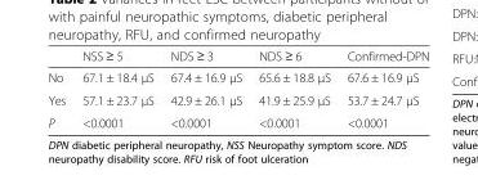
<table><thead><tr><td></td><td>NSS ≥ 5</td><td>NDS ≥ 3</td><td>NDS ≥ 6</td><td>Confirmed-DPN</td></tr></thead><tbody><tr><td>No</td><td>67.1 ± 18.4 μS</td><td>67.4 ± 16.9 μS</td><td>65.6 ± 18.8 μS</td><td>67.6 ± 16.9 μS</td></tr><tr><td>Yes</td><td>57.1 ± 23.7 μS</td><td>42.9 ± 26.1 μS</td><td>41.9 ± 25.9 μS</td><td>53.7 ± 24.7 μS</td></tr><tr><td>P</td><td>&lt;0.0001</td><td>&lt;0.0001</td><td>&lt;0.0001</td><td>&lt;0.0001</td></tr></tbody></table>